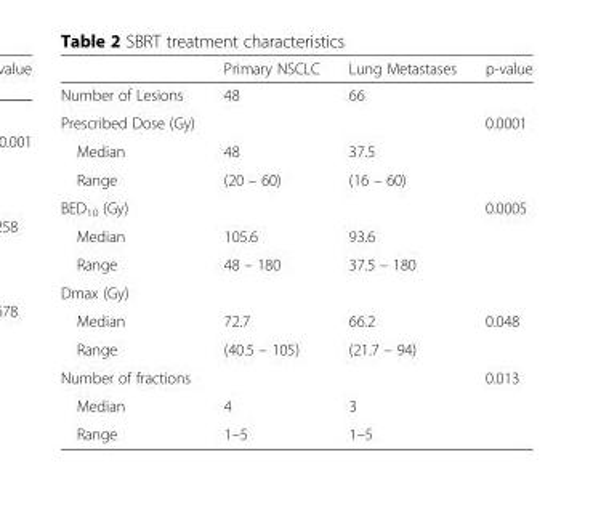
<table><thead><tr><td></td><td>Primary NSCLC</td><td>Lung Metastases</td><td>p-value</td></tr></thead><tbody><tr><td>Number of Lesions</td><td>48</td><td>66</td><td></td></tr><tr><td>Prescribed Dose (Gy)</td><td></td><td></td><td>0.0001</td></tr><tr><td>Median</td><td>48</td><td>37.5</td><td></td></tr><tr><td>Range</td><td>(20 – 60)</td><td>(16 – 60)</td><td></td></tr><tr><td>BED<sub>10</sub> (Gy)</td><td></td><td></td><td>0.0005</td></tr><tr><td>Median</td><td>105.6</td><td>93.6</td><td></td></tr><tr><td>Range</td><td>48 – 180</td><td>37.5 – 180</td><td></td></tr><tr><td colspan="4">Dmax (Gy)</td></tr><tr><td>Median</td><td>72.7</td><td>66.2</td><td>0.048</td></tr><tr><td>Range</td><td>(40.5 – 105)</td><td>(21.7 – 94)</td><td></td></tr><tr><td>Number of fractions</td><td></td><td></td><td>0.013</td></tr><tr><td>Median</td><td>4</td><td>3</td><td></td></tr><tr><td>Range</td><td>1–5</td><td>1–5</td><td></td></tr></tbody></table>